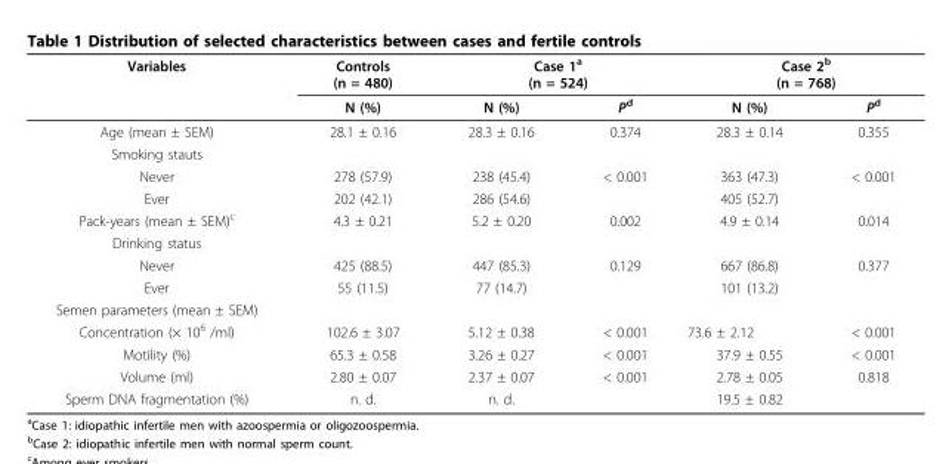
<table><thead><tr><td rowspan="2">Variables</td><td rowspan="2">Controls (n = 480) N (%)</td><td colspan="2">Case 1<sup>a</sup> (n = 524)</td><td colspan="2">Case 2<sup>b</sup> (n = 768)</td></tr><tr><td>N (%)</td><td>P<sup>d</sup></td><td>N (%)</td><td>P<sup>d</sup></td></tr></thead><tbody><tr><td>Age (mean ± SEM)</td><td>28.1 ± 0.16</td><td>28.3 ± 0.16</td><td>0.374</td><td>28.3 ± 0.14</td><td>0.355</td></tr><tr><td colspan="6">Smoking stauts</td></tr><tr><td>Never</td><td>278 (57.9)</td><td>238 (45.4)</td><td>&lt; 0.001</td><td>363 (47.3)</td><td>&lt; 0.001</td></tr><tr><td>Ever</td><td>202 (42.1)</td><td>286 (54.6)</td><td></td><td>405 (52.7)</td><td></td></tr><tr><td>Pack-years (mean ± SEM)<sup>c</sup></td><td>4.3 ± 0.21</td><td>5.2 ± 0.20</td><td>0.002</td><td>4.9 ± 0.14</td><td>0.014</td></tr><tr><td colspan="6">Drinking status</td></tr><tr><td>Never</td><td>425 (88.5)</td><td>447 (85.3)</td><td>0.129</td><td>667 (86.8)</td><td>0.377</td></tr><tr><td>Ever</td><td>55 (11.5)</td><td>77 (14.7)</td><td></td><td>101 (13.2)</td><td></td></tr><tr><td colspan="6">Semen parameters (mean ± SEM)</td></tr><tr><td>Concentration (× 10<sup>6</sup> /ml)</td><td>102.6 ± 3.07</td><td>5.12 ± 0.38</td><td>&lt; 0.001</td><td>73.6 ± 2.12</td><td>&lt; 0.001</td></tr><tr><td>Motility (%)</td><td>65.3 ± 0.58</td><td>3.26 ± 0.27</td><td>&lt; 0.001</td><td>37.9 ± 0.55</td><td>&lt; 0.001</td></tr><tr><td>Volume (ml)</td><td>2.80 ± 0.07</td><td>2.37 ± 0.07</td><td>&lt; 0.001</td><td>2.78 ± 0.05</td><td>0.818</td></tr><tr><td>Sperm DNA fragmentation (%)</td><td>n. d.</td><td>n. d.</td><td></td><td>19.5 ± 0.82</td><td></td></tr></tbody></table>